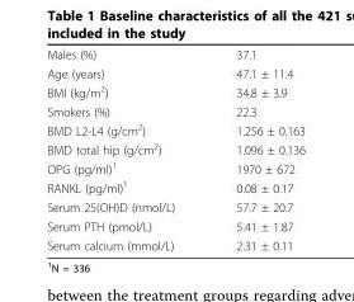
<table><tbody><tr><td>Males (%)</td><td>37.1</td></tr><tr><td>Age (years)</td><td>47.1 ± 11.4</td></tr><tr><td>BMI (kg/m<sup>2</sup>)</td><td>34.8 ± 3.9</td></tr><tr><td>Smokers (%)</td><td>22.3</td></tr><tr><td>BMD L2-L4 (g/cm<sup>2</sup>)</td><td>1.256 ± 0.163</td></tr><tr><td>BMD total hip (g/cm<sup>2</sup>)</td><td>1.096 ± 0.136</td></tr><tr><td>OPG (pg/ml)<sup>1</sup></td><td>1970 ± 672</td></tr><tr><td>RANKL (pg/ml)<sup>1</sup></td><td>0.08 ± 0.17</td></tr><tr><td>Serum 25(OH)D (nmol/L)</td><td>57.7 ± 20.7</td></tr><tr><td>Serum PTH (pmol/L)</td><td>5.41 ± 1.87</td></tr><tr><td>Serum calcium (mmol/L)</td><td>2.31 ± 0.11</td></tr></tbody></table>